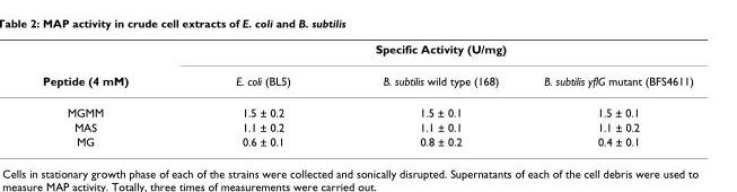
<table><thead><tr><td rowspan="2">Peptide (4 mM)</td><td colspan="3">Specific Activity (U/mg)</td></tr><tr><td>E. coli (BL5)</td><td>B. subtilis wild type (168)</td><td>B. subtilis yflG mutant (BFS4611)</td></tr></thead><tbody><tr><td>MGMM</td><td>1.5 ± 0.2</td><td>1.5 ± 0.1</td><td>1.5 ± 0.1</td></tr><tr><td>MAS</td><td>1.1 ± 0.2</td><td>1.1 ± 0.1</td><td>1.1 ± 0.2</td></tr><tr><td>MG</td><td>0.6 ± 0.1</td><td>0.8 ± 0.2</td><td>0.4 ± 0.1</td></tr></tbody></table>